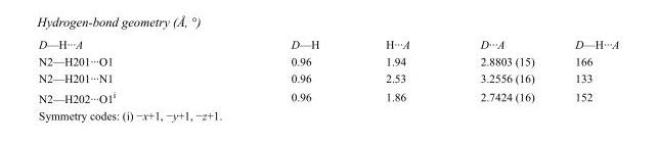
<table><tbody><tr><td>D—H···A</td><td>D—H</td><td>H···A</td><td>D···A</td><td>D—H···A</td></tr><tr><td>N2—H201···O1</td><td>0.96</td><td>1.94</td><td>2.8803 (15)</td><td>166</td></tr><tr><td>N2—H201···N1</td><td>0.96</td><td>2.53</td><td>3.2556 (16)</td><td>133</td></tr><tr><td>N2—H202···O1<sup>i</sup></td><td>0.96</td><td>1.86</td><td>2.7424 (16)</td><td>152</td></tr></tbody></table>